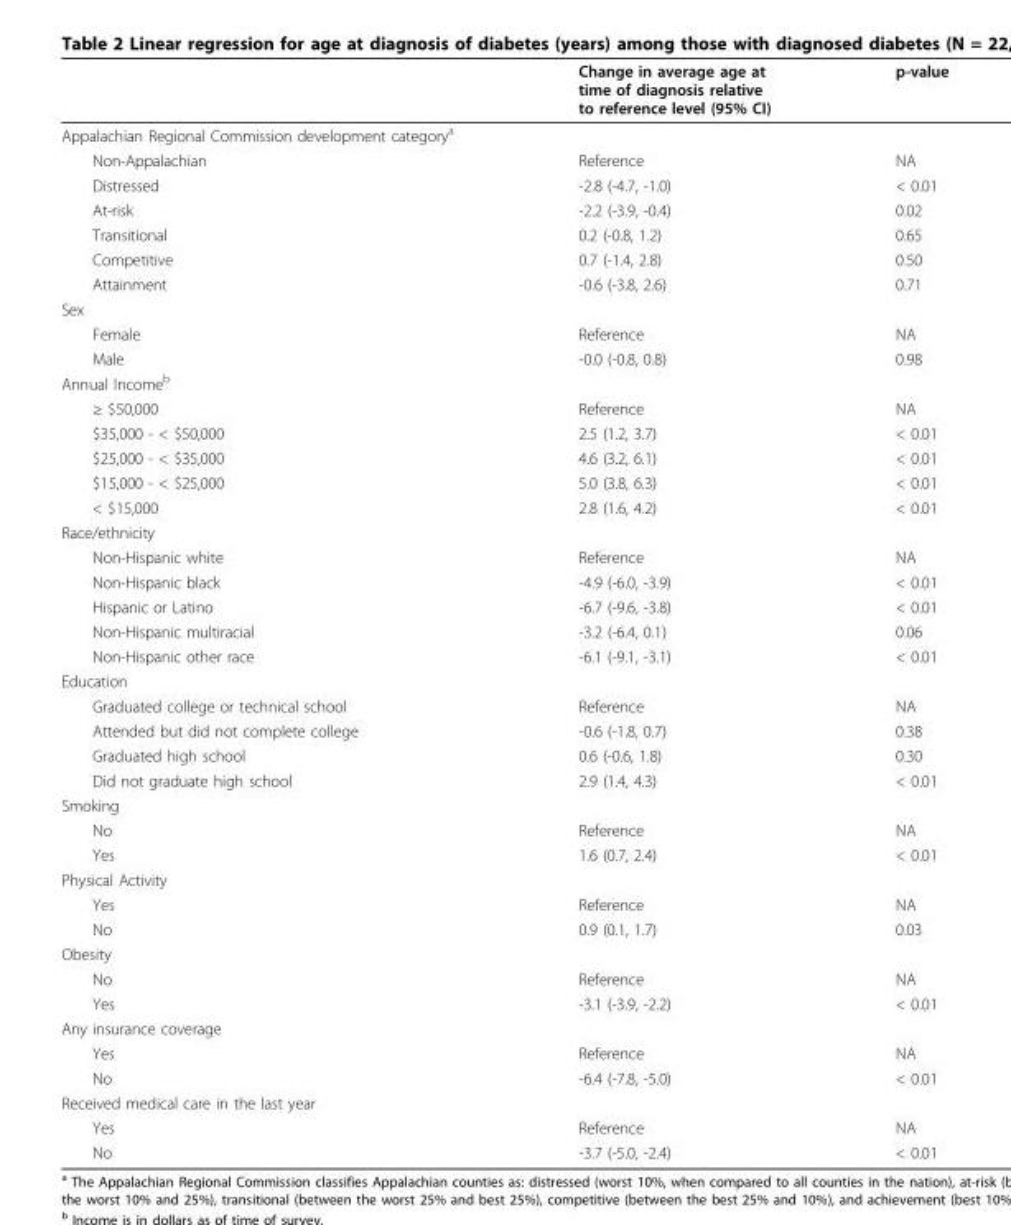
<table><thead><tr><td></td><td>Change in average age at time of diagnosis relative to reference level (95% CI)</td><td>p-value</td></tr></thead><tbody><tr><td colspan="3">Appalachian Regional Commission development category<sup>a</sup></td></tr><tr><td>Non-Appalachian</td><td>Reference</td><td>NA</td></tr><tr><td>Distressed</td><td>-2.8 (-4.7, -1.0)</td><td>&lt; 0.01</td></tr><tr><td>At-risk</td><td>-2.2 (-3.9, -0.4)</td><td>0.02</td></tr><tr><td>Transitional</td><td>0.2 (-0.8, 1.2)</td><td>0.65</td></tr><tr><td>Competitive</td><td>0.7 (-1.4, 2.8)</td><td>0.50</td></tr><tr><td>Attainment</td><td>-0.6 (-3.8, 2.6)</td><td>0.71</td></tr><tr><td colspan="3">Sex</td></tr><tr><td>Female</td><td>Reference</td><td>NA</td></tr><tr><td>Male</td><td>-0.0 (-0.8, 0.8)</td><td>0.98</td></tr><tr><td colspan="3">Annual Income<sup>b</sup></td></tr><tr><td>≥ $50,000</td><td>Reference</td><td>NA</td></tr><tr><td>$35,000 - &lt; $50,000</td><td>2.5 (1.2, 3.7)</td><td>&lt; 0.01</td></tr><tr><td>$25,000 - &lt; $35,000</td><td>4.6 (3.2, 6.1)</td><td>&lt; 0.01</td></tr><tr><td>$15,000 - &lt; $25,000</td><td>5.0 (3.8, 6.3)</td><td>&lt; 0.01</td></tr><tr><td>&lt; $15,000</td><td>2.8 (1.6, 4.2)</td><td>&lt; 0.01</td></tr><tr><td colspan="3">Race/ethnicity</td></tr><tr><td>Non-Hispanic white</td><td>Reference</td><td>NA</td></tr><tr><td>Non-Hispanic black</td><td>-4.9 (-6.0, -3.9)</td><td>&lt; 0.01</td></tr><tr><td>Hispanic or Latino</td><td>-6.7 (-9.6, -3.8)</td><td>&lt; 0.01</td></tr><tr><td>Non-Hispanic multiracial</td><td>-3.2 (-6.4, 0.1)</td><td>0.06</td></tr><tr><td>Non-Hispanic other race</td><td>-6.1 (-9.1, -3.1)</td><td>&lt; 0.01</td></tr><tr><td colspan="3">Education</td></tr><tr><td>Graduated college or technical school</td><td>Reference</td><td>NA</td></tr><tr><td>Attended but did not complete college</td><td>-0.6 (-1.8, 0.7)</td><td>0.38</td></tr><tr><td>Graduated high school</td><td>0.6 (-0.6, 1.8)</td><td>0.30</td></tr><tr><td>Did not graduate high school</td><td>2.9 (1.4, 4.3)</td><td>&lt; 0.01</td></tr><tr><td colspan="3">Smoking</td></tr><tr><td>No</td><td>Reference</td><td>NA</td></tr><tr><td>Yes</td><td>1.6 (0.7, 2.4)</td><td>&lt; 0.01</td></tr><tr><td colspan="3">Physical Activity</td></tr><tr><td>Yes</td><td>Reference</td><td>NA</td></tr><tr><td>No</td><td>0.9 (0.1, 1.7)</td><td>0.03</td></tr><tr><td colspan="3">Obesity</td></tr><tr><td>No</td><td>Reference</td><td>NA</td></tr><tr><td>Yes</td><td>-3.1 (-3.9, -2.2)</td><td>&lt; 0.01</td></tr><tr><td colspan="3">Any insurance coverage</td></tr><tr><td>Yes</td><td>Reference</td><td>NA</td></tr><tr><td>No</td><td>-6.4 (-7.8, -5.0)</td><td>&lt; 0.01</td></tr><tr><td colspan="3">Received medical care in the last year</td></tr><tr><td>Yes</td><td>Reference</td><td>NA</td></tr><tr><td>No</td><td>-3.7 (-5.0, -2.4)</td><td>&lt; 0.01</td></tr></tbody></table>